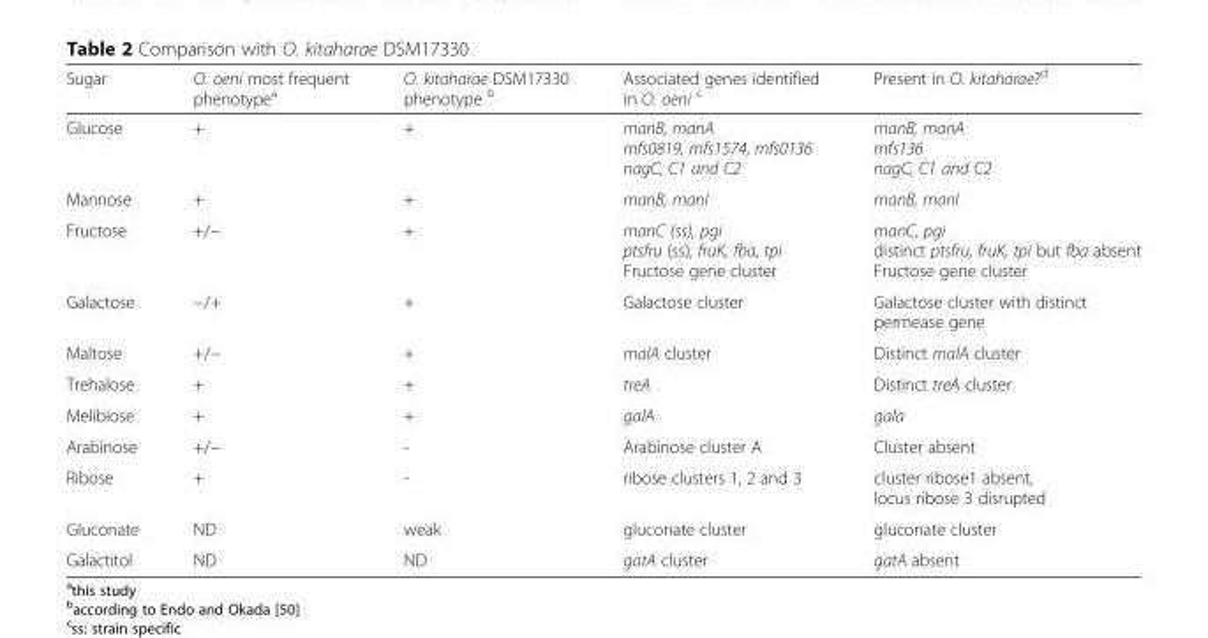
<table><thead><tr><td>Sugar</td><td>O. oeni most frequent phenotype<sup>a</sup></td><td>O. kitaharae DSM17330 phenotype <sup>b</sup></td><td>Associated genes identified in O. oeni <sup>c</sup></td><td>Present in O. kitaharae?<sup>d</sup></td></tr></thead><tbody><tr><td>Glucose</td><td>+</td><td>+</td><td>manB, manA mfs0819, mfs1574, mfs0136 nagC, C1 and C2</td><td>manB, manA mfs136 nagC, C1 and C2</td></tr><tr><td>Mannose</td><td>+</td><td>+</td><td>manB, manI</td><td>manB, manI</td></tr><tr><td>Fructose</td><td>+/−</td><td>+</td><td>manC (ss), pgi ptsfru (ss), fruK, fba, tpi Fructose gene cluster</td><td>manC, pgi distinct ptsfru, fruK, tpi but fba absent Fructose gene cluster</td></tr><tr><td>Galactose</td><td>−/+</td><td>+</td><td>Galactose cluster</td><td>Galactose cluster with distinct permease gene</td></tr><tr><td>Maltose</td><td>+/−</td><td>+</td><td>malA cluster</td><td>Distinct malA cluster</td></tr><tr><td>Trehalose</td><td>+</td><td>+</td><td>treA</td><td>Distinct treA cluster</td></tr><tr><td>Melibiose</td><td>+</td><td>+</td><td>galA</td><td>gala</td></tr><tr><td>Arabinose</td><td>+/−</td><td>-</td><td>Arabinose cluster A</td><td>Cluster absent</td></tr><tr><td>Ribose</td><td>+</td><td>-</td><td>ribose clusters 1, 2 and 3</td><td>cluster ribose1 absent, locus ribose 3 disrupted</td></tr><tr><td>Gluconate</td><td>ND</td><td>weak</td><td>gluconate cluster</td><td>gluconate cluster</td></tr><tr><td>Galactitol</td><td>ND</td><td>ND</td><td>gatA cluster</td><td>gatA absent</td></tr></tbody></table>